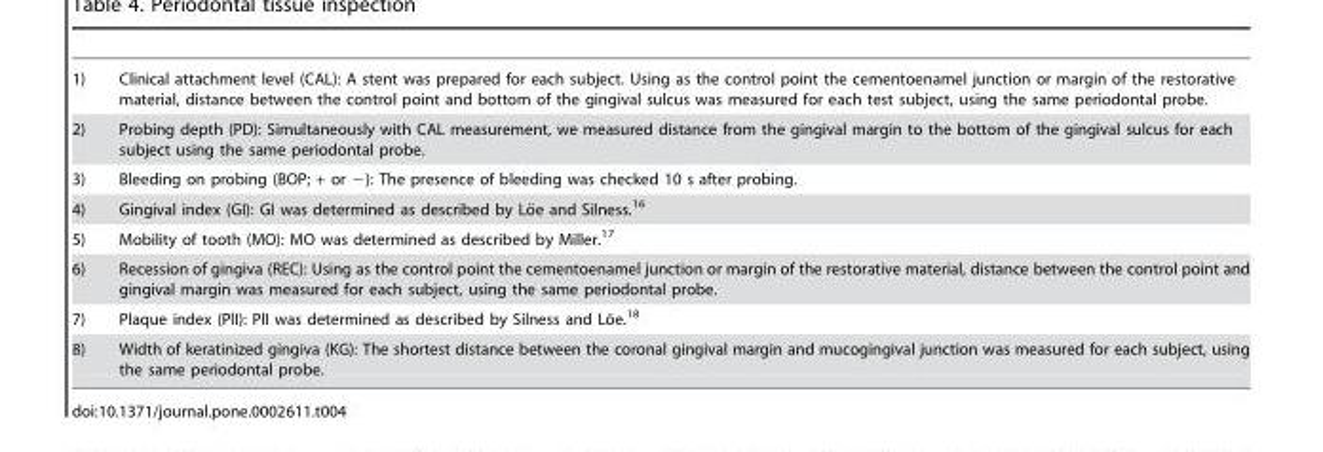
<table><tbody><tr><td>1)</td><td>Clinical attachment level (CAL): A stent was prepared for each subject. Using as the control point the cementoenamel junction or margin of the restorative material, distance between the control point and bottom of the gingival sulcus was measured for each test subject, using the same periodontal probe.</td></tr><tr><td>2)</td><td>Probing depth (PD): Simultaneously with CAL measurement, we measured distance from the gingival margin to the bottom of the gingival sulcus for each subject using the same periodontal probe.</td></tr><tr><td>3)</td><td>Bleeding on probing (BOP; + or −): The presence of bleeding was checked 10 s after probing.</td></tr><tr><td>4)</td><td>Gingival index (GI): GI was determined as described by Lo¨e and Silness.16</td></tr><tr><td>5)</td><td>Mobility of tooth (MO): MO was determined as described by Miller.<sup>17</sup></td></tr><tr><td>6)</td><td>Recession of gingiva (REC): Using as the control point the cementoenamel junction or margin of the restorative material, distance between the control point and gingival margin was measured for each subject, using the same periodontal probe.</td></tr><tr><td>7)</td><td>Plaque index (PlI): PlI was determined as described by Silness and Lo¨e.18</td></tr><tr><td>8)</td><td>Width of keratinized gingiva (KG): The shortest distance between the coronal gingival margin and mucogingival junction was measured for each subject, using the same periodontal probe.</td></tr></tbody></table>